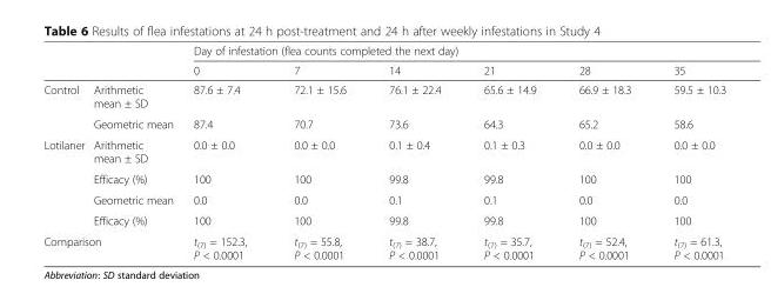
<table><thead><tr><td rowspan="2"></td><td rowspan="2"></td><td colspan="6">Day of infestation (flea counts completed the next day)</td></tr><tr><td>0</td><td>7</td><td>14</td><td>21</td><td>28</td><td>35</td></tr></thead><tbody><tr><td rowspan="2">Control</td><td>Arithmetic mean ± SD</td><td>87.6 ± 7.4</td><td>72.1 ± 15.6</td><td>76.1 ± 22.4</td><td>65.6 ± 14.9</td><td>66.9 ± 18.3</td><td>59.5 ± 10.3</td></tr><tr><td>Geometric mean</td><td>87.4</td><td>70.7</td><td>73.6</td><td>64.3</td><td>65.2</td><td>58.6</td></tr><tr><td rowspan="4">Lotilaner</td><td>Arithmetic mean ± SD</td><td>0.0 ± 0.0</td><td>0.0 ± 0.0</td><td>0.1 ± 0.4</td><td>0.1 ± 0.3</td><td>0.0 ± 0.0</td><td>0.0 ± 0.0</td></tr><tr><td>Efficacy (%)</td><td>100</td><td>100</td><td>99.8</td><td>99.8</td><td>100</td><td>100</td></tr><tr><td>Geometric mean</td><td>0.0</td><td>0.0</td><td>0.1</td><td>0.1</td><td>0.0</td><td>0.0</td></tr><tr><td>Efficacy (%)</td><td>100</td><td>100</td><td>99.8</td><td>99.8</td><td>100</td><td>100</td></tr><tr><td colspan="2">Comparison</td><td>t<sub>(7)</sub> = 152.3, P &lt; 0.0001</td><td>t<sub>(7)</sub> = 55.8, P &lt; 0.0001</td><td>t<sub>(7)</sub> = 38.7, P &lt; 0.0001</td><td>t<sub>(7)</sub> = 35.7, P &lt; 0.0001</td><td>t<sub>(7)</sub> = 52.4, P &lt; 0.0001</td><td>t<sub>(7)</sub> = 61.3, P &lt; 0.0001</td></tr></tbody></table>